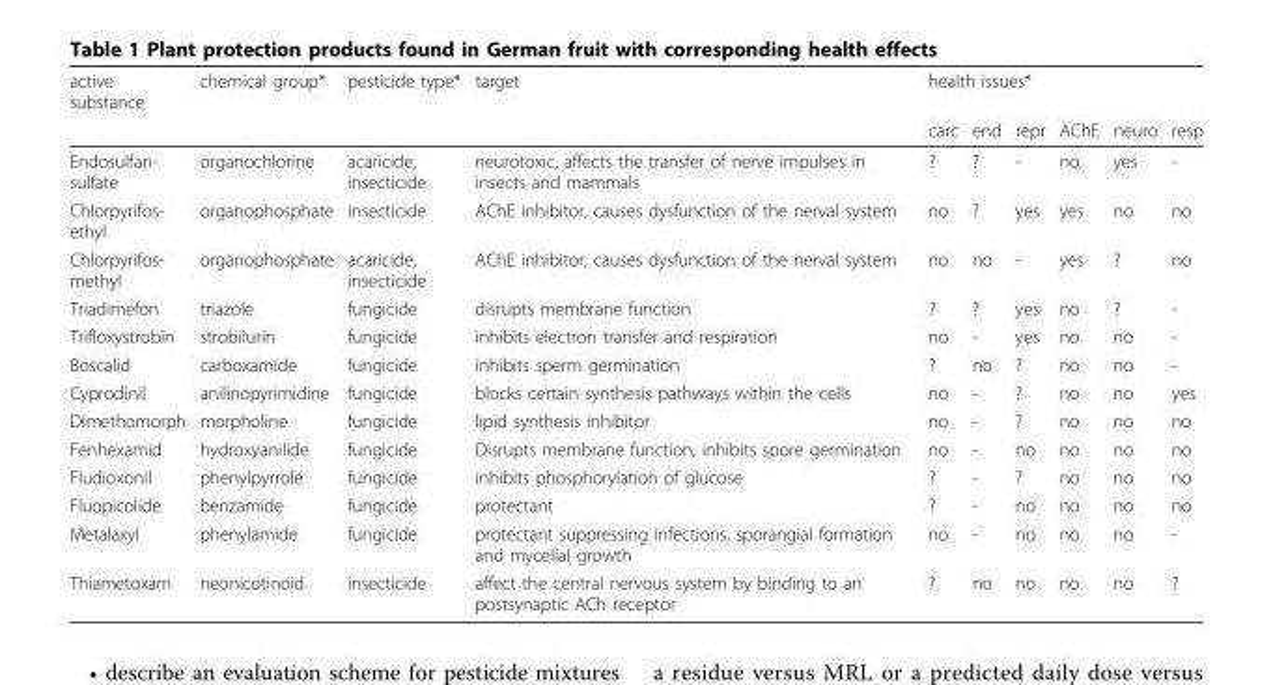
<table><thead><tr><td rowspan="2">active substance</td><td rowspan="2">chemical group*</td><td rowspan="2">pesticide type*</td><td rowspan="2">target</td><td colspan="6">health issues*</td></tr><tr><td>carc</td><td>end</td><td>repr</td><td>AChE</td><td>neuro</td><td>resp</td></tr></thead><tbody><tr><td>Endosulfan- sulfate</td><td>organochlorine</td><td>acaricide, insecticide</td><td>neurotoxic, affects the transfer of nerve impulses in insects and mammals</td><td>?</td><td>?</td><td>-</td><td>no</td><td>yes</td><td>-</td></tr><tr><td>Chlorpyrifos- ethyl</td><td>organophosphate</td><td>insecticide</td><td>AChE inhibitor, causes dysfunction of the nerval system</td><td>no</td><td>?</td><td>yes</td><td>yes</td><td>no</td><td>no</td></tr><tr><td>Chlorpyrifos- methyl</td><td>organophosphate</td><td>acaricide, insecticide</td><td>AChE inhibitor, causes dysfunction of the nerval system</td><td>no</td><td>no</td><td>-</td><td>yes</td><td>?</td><td>no</td></tr><tr><td>Triadimefon</td><td>triazole</td><td>fungicide</td><td>disrupts membrane function</td><td>?</td><td>?</td><td>yes</td><td>no</td><td>?</td><td>-</td></tr><tr><td>Trifloxystrobin</td><td>strobilurin</td><td>fungicide</td><td>inhibits electron transfer and respiration</td><td>no</td><td>-</td><td>yes</td><td>no</td><td>no</td><td>-</td></tr><tr><td>Boscalid</td><td>carboxamide</td><td>fungicide</td><td>inhibits sperm germination</td><td>?</td><td>no</td><td>?</td><td>no</td><td>no</td><td>-</td></tr><tr><td>Cyprodinil</td><td>anilinopyrimidine</td><td>fungicide</td><td>blocks certain synthesis pathways within the cells</td><td>no</td><td>-</td><td>?</td><td>no</td><td>no</td><td>yes</td></tr><tr><td>Dimethomorph</td><td>morpholine</td><td>fungicide</td><td>lipid synthesis inhibitor</td><td>no</td><td>-</td><td>?</td><td>no</td><td>no</td><td>no</td></tr><tr><td>Fenhexamid</td><td>hydroxyanilide</td><td>fungicide</td><td>Disrupts membrane function, inhibits spore germination</td><td>no</td><td>-</td><td>no</td><td>no</td><td>no</td><td>no</td></tr><tr><td>Fludioxonil</td><td>phenylpyrrole</td><td>fungicide</td><td>inhibits phosphorylation of glucose</td><td>?</td><td>-</td><td>?</td><td>no</td><td>no</td><td>no</td></tr><tr><td>Fluopicolide</td><td>benzamide</td><td>fungicide</td><td>protectant</td><td>?</td><td>-</td><td>no</td><td>no</td><td>no</td><td>no</td></tr><tr><td>Metalaxyl</td><td>phenylamide</td><td>fungicide</td><td>protectant suppressing infections, sporangial formation and mycelial growth</td><td>no</td><td>-</td><td>no</td><td>no</td><td>no</td><td>-</td></tr><tr><td>Thiametoxam</td><td>neonicotinoid</td><td>insecticide</td><td>affect the central nervous system by binding to an postsynaptic ACh receptor</td><td>?</td><td>no</td><td>no</td><td>no</td><td>no</td><td>?</td></tr></tbody></table>